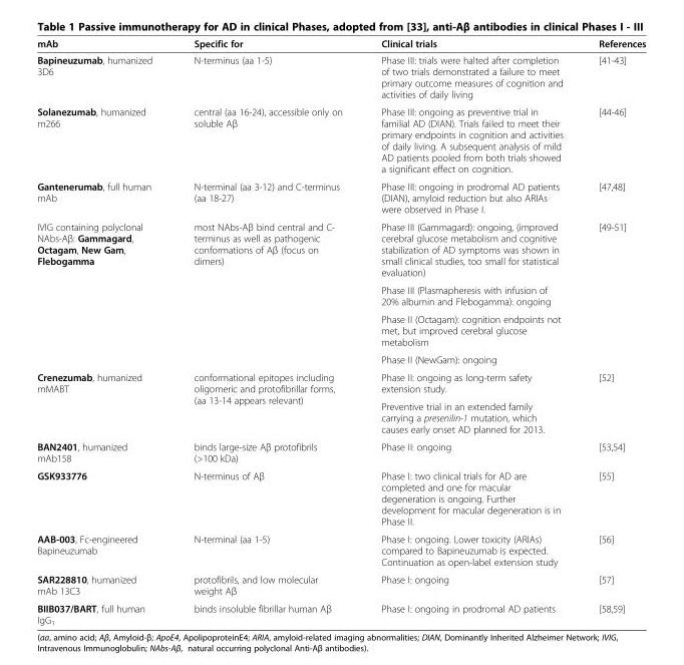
<table><thead><tr><td>mAb</td><td>Specific for</td><td>Clinical trials</td><td>References</td></tr></thead><tbody><tr><td>Bapineuzumab, humanized 3D6</td><td>N-terminus (aa 1-5)</td><td>Phase III: trials were halted after completion of two trials demonstrated a failure to meet primary outcome measures of cognition and activities of daily living</td><td>[41-43]</td></tr><tr><td>Solanezumab, humanized m266</td><td>central (aa 16-24), accessible only on soluble Aβ</td><td>Phase III: ongoing as preventive trial in familial AD (DIAN). Trials failed to meet their primary endpoints in cognition and activities of daily living. A subsequent analysis of mild AD patients pooled from both trials showed a significant effect on cognition.</td><td>[44-46]</td></tr><tr><td>Gantenerumab, full human mAb</td><td>N-terminal (aa 3-12) and C-terminus (aa 18-27)</td><td>Phase III: ongoing in prodromal AD patients (DIAN), amyloid reduction but also ARIAs were observed in Phase I.</td><td>[47,48]</td></tr><tr><td rowspan="4">IVIG containing polyclonal NAbs-Aβ: Gammagard, Octagam, New Gam, Flebogamma</td><td rowspan="4">most NAbs-Aβ bind central and C- terminus as well as pathogenic conformations of Aβ (focus on dimers)</td><td>Phase III (Gammagard): ongoing, (improved cerebral glucose metabolism and cognitive stabilization of AD symptoms was shown in small clinical studies, too small for statistical evaluation)</td><td rowspan="4">[49-51]</td></tr><tr><td>Phase III (Plasmapheresis with infusion of 20% albumin and Flebogamma): ongoing</td></tr><tr><td>Phase II (Octagam): cognition endpoints not met, but improved cerebral glucose metabolism</td></tr><tr><td>Phase II (NewGam): ongoing</td></tr><tr><td rowspan="2">Crenezumab, humanized mMABT</td><td rowspan="2">conformational epitopes including oligomeric and protofibrillar forms, (aa 13-14 appears relevant)</td><td>Phase II: ongoing as long-term safety extension study.</td><td rowspan="2">[52]</td></tr><tr><td>Preventive trial in an extended family carrying a presenilin-1 mutation, which causes early onset AD planned for 2013.</td></tr><tr><td>BAN2401, humanized mAb158</td><td>binds large-size Aβ protofibrils (&gt;100 kDa)</td><td>Phase II: ongoing</td><td>[53,54]</td></tr><tr><td>GSK933776</td><td>N-terminus of Aβ</td><td>Phase I: two clinical trials for AD are completed and one for macular degeneration is ongoing. Further development for macular degeneration is in Phase II.</td><td>[55]</td></tr><tr><td>AAB-003, Fc-engineered Bapineuzumab</td><td>N-terminal (aa 1-5)</td><td>Phase I: ongoing. Lower toxicity (ARIAs) compared to Bapineuzumab is expected. Continuation as open-label extension study</td><td>[56]</td></tr><tr><td>SAR228810, humanized mAb 13C3</td><td>protofibrils, and low molecular weight Aβ</td><td>Phase I: ongoing</td><td>[57]</td></tr><tr><td>BIIB037/BART, full human IgG<sub>1</sub></td><td>binds insoluble fibrillar human Aβ</td><td>Phase I: ongoing in prodromal AD patients</td><td>[58,59]</td></tr></tbody></table>